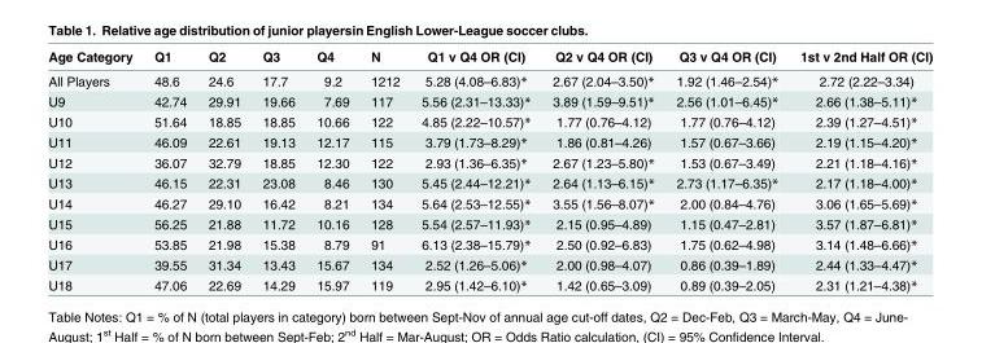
<table><thead><tr><td>Age Category</td><td>Q1</td><td>Q2</td><td>Q3</td><td>Q4</td><td>N</td><td>Q1 v Q4 OR (CI)</td><td>Q2 v Q4 OR (CI)</td><td>Q3 v Q4 OR (CI)</td><td>1st v 2nd Half OR (CI)</td></tr></thead><tbody><tr><td>All Players</td><td>48.6</td><td>24.6</td><td>17.7</td><td>9.2</td><td>1212</td><td>5.28 (4.08–6.83)*</td><td>2.67 (2.04–3.50)*</td><td>1.92 (1.46–2.54)*</td><td>2.72 (2.22–3.34)</td></tr><tr><td>U9</td><td>42.74</td><td>29.91</td><td>19.66</td><td>7.69</td><td>117</td><td>5.56 (2.31–13.33)*</td><td>3.89 (1.59–9.51)*</td><td>2.56 (1.01–6.45)*</td><td>2.66 (1.38–5.11)*</td></tr><tr><td>U10</td><td>51.64</td><td>18.85</td><td>18.85</td><td>10.66</td><td>122</td><td>4.85 (2.22–10.57)*</td><td>1.77 (0.76–4.12)</td><td>1.77 (0.76–4.12)</td><td>2.39 (1.27–4.51)*</td></tr><tr><td>U11</td><td>46.09</td><td>22.61</td><td>19.13</td><td>12.17</td><td>115</td><td>3.79 (1.73–8.29)*</td><td>1.86 (0.81–4.26)</td><td>1.57 (0.67–3.66)</td><td>2.19 (1.15–4.20)*</td></tr><tr><td>U12</td><td>36.07</td><td>32.79</td><td>18.85</td><td>12.30</td><td>122</td><td>2.93 (1.36–6.35)*</td><td>2.67 (1.23–5.80)*</td><td>1.53 (0.67–3.49)</td><td>2.21 (1.18–4.16)*</td></tr><tr><td>U13</td><td>46.15</td><td>22.31</td><td>23.08</td><td>8.46</td><td>130</td><td>5.45 (2.44–12.21)*</td><td>2.64 (1.13–6.15)*</td><td>2.73 (1.17–6.35)*</td><td>2.17 (1.18–4.00)*</td></tr><tr><td>U14</td><td>46.27</td><td>29.10</td><td>16.42</td><td>8.21</td><td>134</td><td>5.64 (2.53–12.55)*</td><td>3.55 (1.56–8.07)*</td><td>2.00 (0.84–4.76)</td><td>3.06 (1.65–5.69)*</td></tr><tr><td>U15</td><td>56.25</td><td>21.88</td><td>11.72</td><td>10.16</td><td>128</td><td>5.54 (2.57–11.93)*</td><td>2.15 (0.95–4.89)</td><td>1.15 (0.47–2.81)</td><td>3.57 (1.87–6.81)*</td></tr><tr><td>U16</td><td>53.85</td><td>21.98</td><td>15.38</td><td>8.79</td><td>91</td><td>6.13 (2.38–15.79)*</td><td>2.50 (0.92–6.83)</td><td>1.75 (0.62–4.98)</td><td>3.14 (1.48–6.66)*</td></tr><tr><td>U17</td><td>39.55</td><td>31.34</td><td>13.43</td><td>15.67</td><td>134</td><td>2.52 (1.26–5.06)*</td><td>2.00 (0.98–4.07)</td><td>0.86 (0.39–1.89)</td><td>2.44 (1.33–4.47)*</td></tr><tr><td>U18</td><td>47.06</td><td>22.69</td><td>14.29</td><td>15.97</td><td>119</td><td>2.95 (1.42–6.10)*</td><td>1.42 (0.65–3.09)</td><td>0.89 (0.39–2.05)</td><td>2.31 (1.21–4.38)*</td></tr></tbody></table>